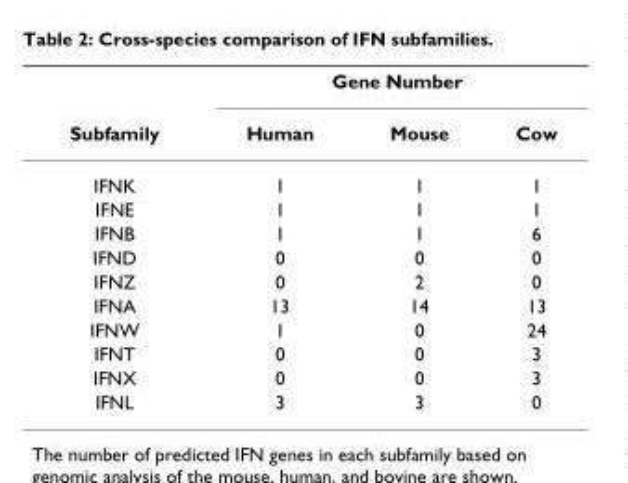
<table><thead><tr><td rowspan="2">Subfamily</td><td colspan="3">Gene Number</td></tr><tr><td>Human</td><td>Mouse</td><td>Cow</td></tr></thead><tbody><tr><td>IFNK</td><td>1</td><td>1</td><td>1</td></tr><tr><td>IFNE</td><td>1</td><td>1</td><td>1</td></tr><tr><td>IFNB</td><td>1</td><td>1</td><td>6</td></tr><tr><td>IFND</td><td>0</td><td>0</td><td>0</td></tr><tr><td>IFNZ</td><td>0</td><td>2</td><td>0</td></tr><tr><td>IFNA</td><td>13</td><td>14</td><td>13</td></tr><tr><td>IFNW</td><td>1</td><td>0</td><td>24</td></tr><tr><td>IFNT</td><td>0</td><td>0</td><td>3</td></tr><tr><td>IFNX</td><td>0</td><td>0</td><td>3</td></tr><tr><td>IFNL</td><td>3</td><td>3</td><td>0</td></tr></tbody></table>